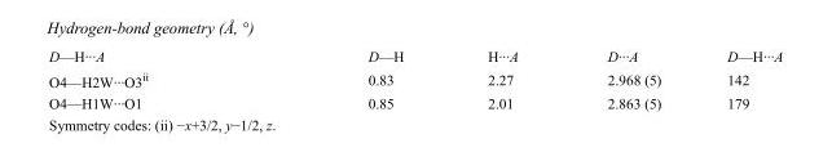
<table><tbody><tr><td>D—H···A</td><td>D—H</td><td>H···A</td><td>D···A</td><td>D—H···A</td></tr><tr><td>O4—H2W···O3<sup>ii</sup></td><td>0.83</td><td>2.27</td><td>2.968 (5)</td><td>142</td></tr><tr><td>O4—H1W···O1</td><td>0.85</td><td>2.01</td><td>2.863 (5)</td><td>179</td></tr></tbody></table>